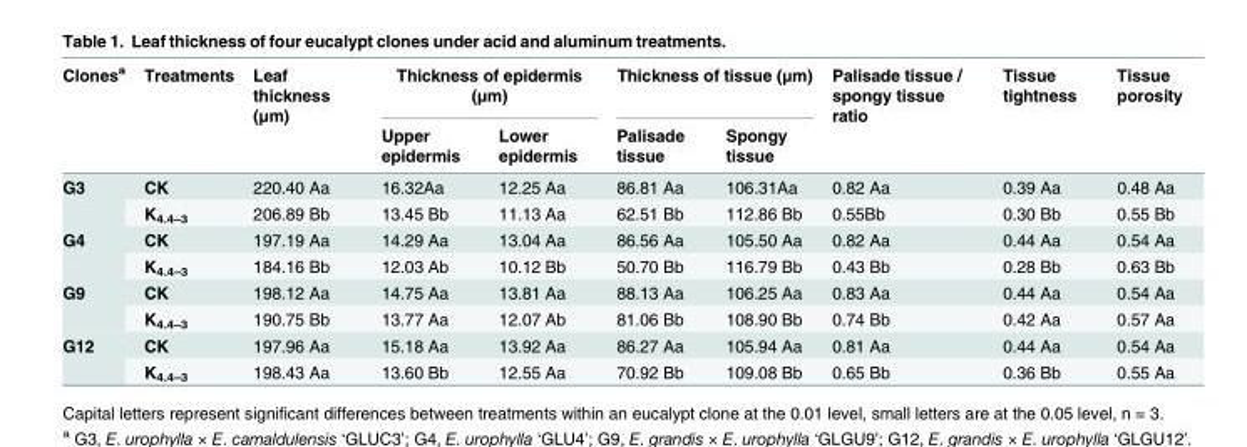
<table><thead><tr><td rowspan="2">Clones<sup>a</sup></td><td rowspan="2">Treatments</td><td rowspan="2">Leaf thickness (μm)</td><td colspan="2">Thickness of epidermis (μm)</td><td colspan="2">Thickness of tissue (μm)</td><td rowspan="2">Palisade tissue / spongy tissue ratio</td><td rowspan="2">Tissue tightness</td><td rowspan="2">Tissue porosity</td></tr><tr><td>Upper epidermis</td><td>Lower epidermis</td><td>Palisade tissue</td><td>Spongy tissue</td></tr></thead><tbody><tr><td rowspan="2">G3</td><td>CK</td><td>220.40 Aa</td><td>16.32Aa</td><td>12.25 Aa</td><td>86.81 Aa</td><td>106.31Aa</td><td>0.82 Aa</td><td>0.39 Aa</td><td>0.48 Aa</td></tr><tr><td>K<sub>4.4–3</sub></td><td>206.89 Bb</td><td>13.45 Bb</td><td>11.13 Aa</td><td>62.51 Bb</td><td>112.86 Bb</td><td>0.55Bb</td><td>0.30 Bb</td><td>0.55 Bb</td></tr><tr><td rowspan="2">G4</td><td>CK</td><td>197.19 Aa</td><td>14.29 Aa</td><td>13.04 Aa</td><td>86.56 Aa</td><td>105.50 Aa</td><td>0.82 Aa</td><td>0.44 Aa</td><td>0.54 Aa</td></tr><tr><td>K<sub>4.4–3</sub></td><td>184.16 Bb</td><td>12.03 Ab</td><td>10.12 Bb</td><td>50.70 Bb</td><td>116.79 Bb</td><td>0.43 Bb</td><td>0.28 Bb</td><td>0.63 Bb</td></tr><tr><td rowspan="2">G9</td><td>CK</td><td>198.12 Aa</td><td>14.75 Aa</td><td>13.81 Aa</td><td>88.13 Aa</td><td>106.25 Aa</td><td>0.83 Aa</td><td>0.44 Aa</td><td>0.54 Aa</td></tr><tr><td>K<sub>4.4–3</sub></td><td>190.75 Bb</td><td>13.77 Aa</td><td>12.07 Ab</td><td>81.06 Bb</td><td>108.90 Bb</td><td>0.74 Bb</td><td>0.42 Aa</td><td>0.57 Aa</td></tr><tr><td rowspan="2">G12</td><td>CK</td><td>197.96 Aa</td><td>15.18 Aa</td><td>13.92 Aa</td><td>86.27 Aa</td><td>105.94 Aa</td><td>0.81 Aa</td><td>0.44 Aa</td><td>0.54 Aa</td></tr><tr><td>K<sub>4.4–3</sub></td><td>198.43 Aa</td><td>13.60 Bb</td><td>12.55 Aa</td><td>70.92 Bb</td><td>109.08 Bb</td><td>0.65 Bb</td><td>0.36 Bb</td><td>0.55 Aa</td></tr></tbody></table>